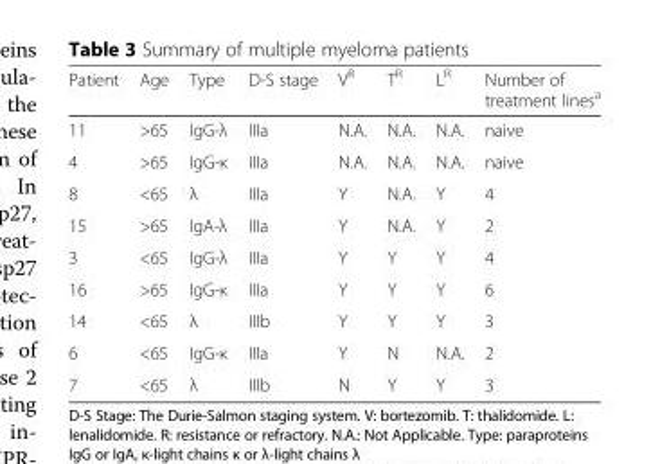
<table><thead><tr><td>Patient</td><td>Age</td><td>Type</td><td>D-S stage</td><td>V<sup>R</sup></td><td>T<sup>R</sup></td><td>L<sup>R</sup></td><td>Number of treatment lines<sup>a</sup></td></tr></thead><tbody><tr><td>11</td><td>&gt;65</td><td>IgG-λ</td><td>IIIa</td><td>N.A.</td><td>N.A.</td><td>N.A.</td><td>naive</td></tr><tr><td>4</td><td>&gt;65</td><td>IgG-κ</td><td>IIIa</td><td>N.A.</td><td>N.A.</td><td>N.A.</td><td>naive</td></tr><tr><td>8</td><td>&lt;65</td><td>λ</td><td>IIIa</td><td>Y</td><td>N.A.</td><td>Y</td><td>4</td></tr><tr><td>15</td><td>&gt;65</td><td>IgA-λ</td><td>IIIa</td><td>Y</td><td>N.A.</td><td>Y</td><td>2</td></tr><tr><td>3</td><td>&lt;65</td><td>IgG-λ</td><td>IIIa</td><td>Y</td><td>Y</td><td>Y</td><td>4</td></tr><tr><td>16</td><td>&gt;65</td><td>IgG-κ</td><td>IIIa</td><td>Y</td><td>Y</td><td>Y</td><td>6</td></tr><tr><td>14</td><td>&lt;65</td><td>λ</td><td>IIIb</td><td>Y</td><td>Y</td><td>Y</td><td>3</td></tr><tr><td>6</td><td>&lt;65</td><td>IgG-κ</td><td>IIIa</td><td>Y</td><td>N</td><td>N.A.</td><td>2</td></tr><tr><td>7</td><td>&lt;65</td><td>λ</td><td>IIIb</td><td>N</td><td>Y</td><td>Y</td><td>3</td></tr></tbody></table>